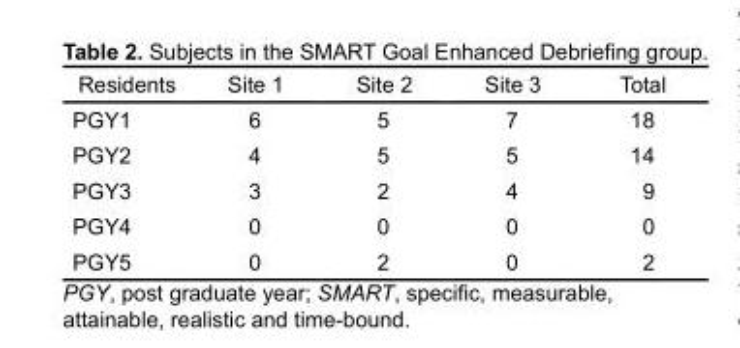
<table><thead><tr><td>Residents</td><td>Site 1</td><td>Site 2</td><td>Site 3</td><td>Total</td></tr></thead><tbody><tr><td>PGY1</td><td>6</td><td>5</td><td>7</td><td>18</td></tr><tr><td>PGY2</td><td>4</td><td>5</td><td>5</td><td>14</td></tr><tr><td>PGY3</td><td>3</td><td>2</td><td>4</td><td>9</td></tr><tr><td>PGY4</td><td>0</td><td>0</td><td>0</td><td>0</td></tr><tr><td>PGY5</td><td>0</td><td>2</td><td>0</td><td>2</td></tr></tbody></table>